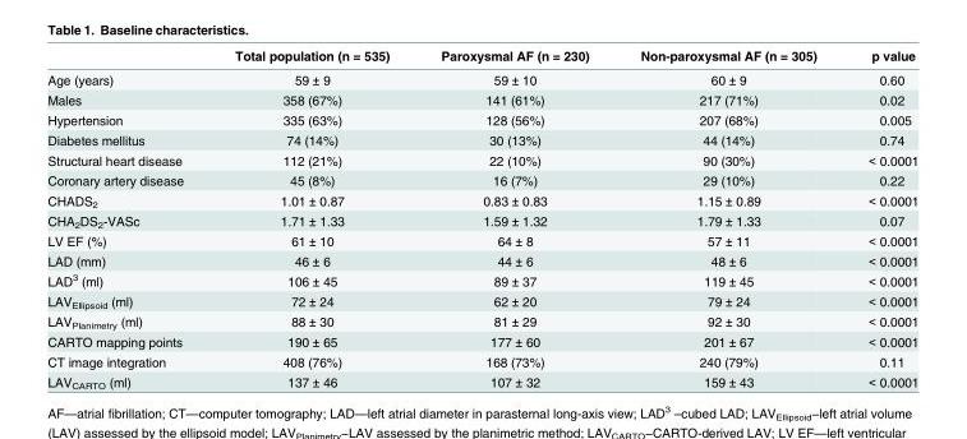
<table><thead><tr><td></td><td>Total population (n = 535)</td><td>Paroxysmal AF (n = 230)</td><td>Non-paroxysmal AF (n = 305)</td><td>p value</td></tr></thead><tbody><tr><td>Age (years)</td><td>59 ± 9</td><td>59 ± 10</td><td>60 ± 9</td><td>0.60</td></tr><tr><td>Males</td><td>358 (67%)</td><td>141 (61%)</td><td>217 (71%)</td><td>0.02</td></tr><tr><td>Hypertension</td><td>335 (63%)</td><td>128 (56%)</td><td>207 (68%)</td><td>0.005</td></tr><tr><td>Diabetes mellitus</td><td>74 (14%)</td><td>30 (13%)</td><td>44 (14%)</td><td>0.74</td></tr><tr><td>Structural heart disease</td><td>112 (21%)</td><td>22 (10%)</td><td>90 (30%)</td><td>&lt; 0.0001</td></tr><tr><td>Coronary artery disease</td><td>45 (8%)</td><td>16 (7%)</td><td>29 (10%)</td><td>0.22</td></tr><tr><td>CHADS<sub>2</sub></td><td>1.01 ± 0.87</td><td>0.83 ± 0.83</td><td>1.15 ± 0.89</td><td>&lt; 0.0001</td></tr><tr><td>CHA<sub>2</sub>DS<sub>2</sub>-VASc</td><td>1.71 ± 1.33</td><td>1.59 ± 1.32</td><td>1.79 ± 1.33</td><td>0.07</td></tr><tr><td>LV EF (%)</td><td>61 ± 10</td><td>64 ± 8</td><td>57 ± 11</td><td>&lt; 0.0001</td></tr><tr><td>LAD (mm)</td><td>46 ± 6</td><td>44 ± 6</td><td>48 ± 6</td><td>&lt; 0.0001</td></tr><tr><td>LAD<sup>3</sup> (ml)</td><td>106 ± 45</td><td>89 ± 37</td><td>119 ± 45</td><td>&lt; 0.0001</td></tr><tr><td>LAV<sub>Ellipsoid</sub> (ml)</td><td>72 ± 24</td><td>62 ± 20</td><td>79 ± 24</td><td>&lt; 0.0001</td></tr><tr><td>LAV<sub>Planimetry</sub> (ml)</td><td>88 ± 30</td><td>81 ± 29</td><td>92 ± 30</td><td>&lt; 0.0001</td></tr><tr><td>CARTO mapping points</td><td>190 ± 65</td><td>177 ± 60</td><td>201 ± 67</td><td>&lt; 0.0001</td></tr><tr><td>CT image integration</td><td>408 (76%)</td><td>168 (73%)</td><td>240 (79%)</td><td>0.11</td></tr><tr><td>LAV<sub>CARTO</sub> (ml)</td><td>137 ± 46</td><td>107 ± 32</td><td>159 ± 43</td><td>&lt; 0.0001</td></tr></tbody></table>